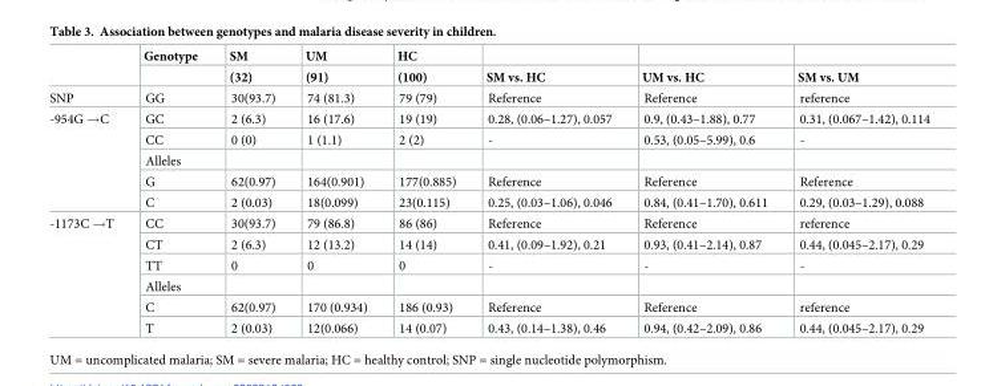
<table><thead><tr><td rowspan="2"></td><td rowspan="2">Genotype</td><td rowspan="2">SM (32)</td><td rowspan="2">UM (91)</td><td rowspan="2">HC (100)</td><td rowspan="2">SM vs. HC</td><td rowspan="2">UM vs. HC</td><td rowspan="2">SM vs. UM</td></tr><tr></tr></thead><tbody><tr><td>SNP</td><td>GG</td><td>30(93.7)</td><td>74 (81.3)</td><td>79 (79)</td><td>Reference</td><td>Reference</td><td>reference</td></tr><tr><td rowspan="5">-954G →C</td><td>GC</td><td>2 (6.3)</td><td>16 (17.6)</td><td>19 (19)</td><td>0.28, (0.06–1.27), 0.057</td><td>0.9, (0.43–1.88), 0.77</td><td>0.31, (0.067–1.42), 0.114</td></tr><tr><td>CC</td><td>0 (0)</td><td>1 (1.1)</td><td>2 (2)</td><td>-</td><td>0.53, (0.05–5.99), 0.6</td><td>-</td></tr><tr><td>Alleles</td><td></td><td></td><td></td><td></td><td></td><td></td></tr><tr><td>G</td><td>62(0.97)</td><td>164(0.901)</td><td>177(0.885)</td><td>Reference</td><td>Reference</td><td>Reference</td></tr><tr><td>C</td><td>2 (0.03)</td><td>18(0.099)</td><td>23(0.115)</td><td>0.25, (0.03–1.06), 0.046</td><td>0.84, (0.41–1.70), 0.611</td><td>0.29, (0.03–1.29), 0.088</td></tr><tr><td rowspan="6">-1173C →T</td><td>CC</td><td>30(93.7)</td><td>79 (86.8)</td><td>86 (86)</td><td>Reference</td><td>Reference</td><td>reference</td></tr><tr><td>CT</td><td>2 (6.3)</td><td>12 (13.2)</td><td>14 (14)</td><td>0.41, (0.09–1.92), 0.21</td><td>0.93, (0.41–2.14), 0.87</td><td>0.44, (0.045–2.17), 0.29</td></tr><tr><td>TT</td><td>0</td><td>0</td><td>0</td><td>-</td><td>-</td><td>-</td></tr><tr><td>Alleles</td><td></td><td></td><td></td><td></td><td></td><td></td></tr><tr><td>C</td><td>62(0.97)</td><td>170 (0.934)</td><td>186 (0.93)</td><td>Reference</td><td>Reference</td><td>reference</td></tr><tr><td>T</td><td>2 (0.03)</td><td>12(0.066)</td><td>14 (0.07)</td><td>0.43, (0.14–1.38), 0.46</td><td>0.94, (0.42–2.09), 0.86</td><td>0.44, (0.045–2.17), 0.29</td></tr></tbody></table>